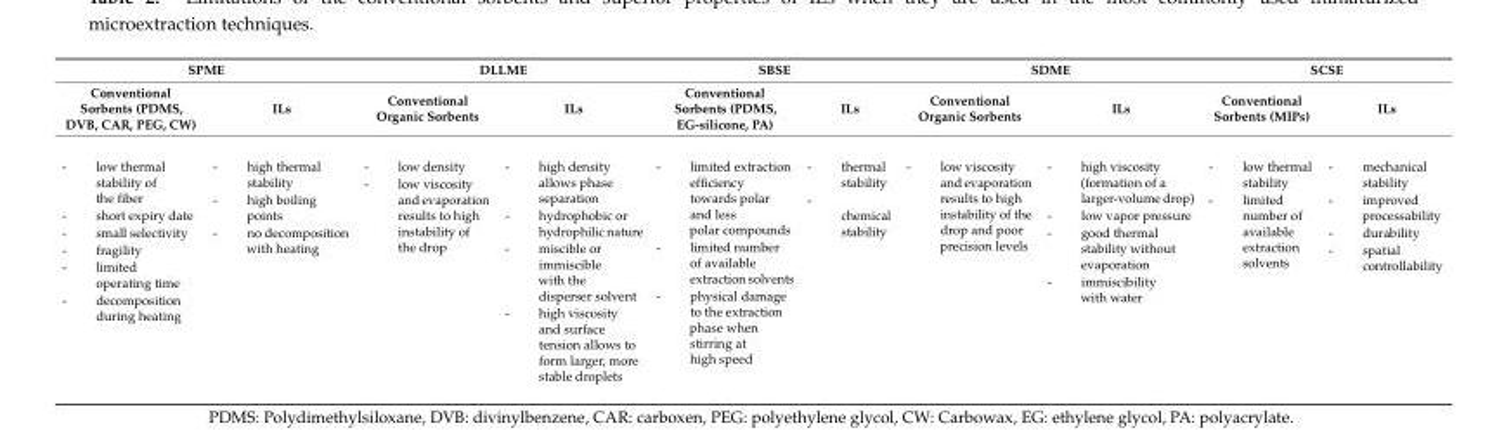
<table><thead><tr><td colspan="2">SPME</td><td colspan="2">DLLME</td><td colspan="2">SBSE</td><td colspan="2">SDME</td><td colspan="2">SCSE</td></tr><tr><td>Conventional Sorbents (PDMS, DVB, CAR, PEG, CW)</td><td>ILs</td><td>Conventional Organic Sorbents</td><td>ILs</td><td>Conventional Sorbents (PDMS, EG-silicone, PA)</td><td>ILs</td><td>Conventional Organic Sorbents</td><td>ILs</td><td>Conventional Sorbents (MIPs)</td><td>ILs</td></tr></thead><tbody><tr><td>- low thermal stability of the fiber - short expiry date - small selectivity - fragility - limited operating time - decomposition during heating</td><td>- high thermal stability - high boiling points - no decomposition with heating</td><td>- low density - low viscosity and evaporation results to high instability of the drop</td><td>- high density allows phase separation - hydrophobic or hydrophilic nature - miscible or immiscible with the disperser solvent - high viscosity and surface tension allows to form larger, more stable droplets</td><td>- limited extraction efficiency towards polar and less polar compounds - limited number of available extraction solvents - physical damage to the extraction phase when stirring at high speed</td><td>- thermal stability - chemical stability</td><td>- low viscosity and evaporation results to high instability of the drop and poor precision levels</td><td>- high viscosity (formation of a larger-volume drop) - low vapor pressure - good thermal stability without evaporation - immiscibility with water</td><td>- low thermal stability - limited number of available extraction solvents</td><td>- mechanical stability - improved processability - durability - spatial controllability</td></tr></tbody></table>